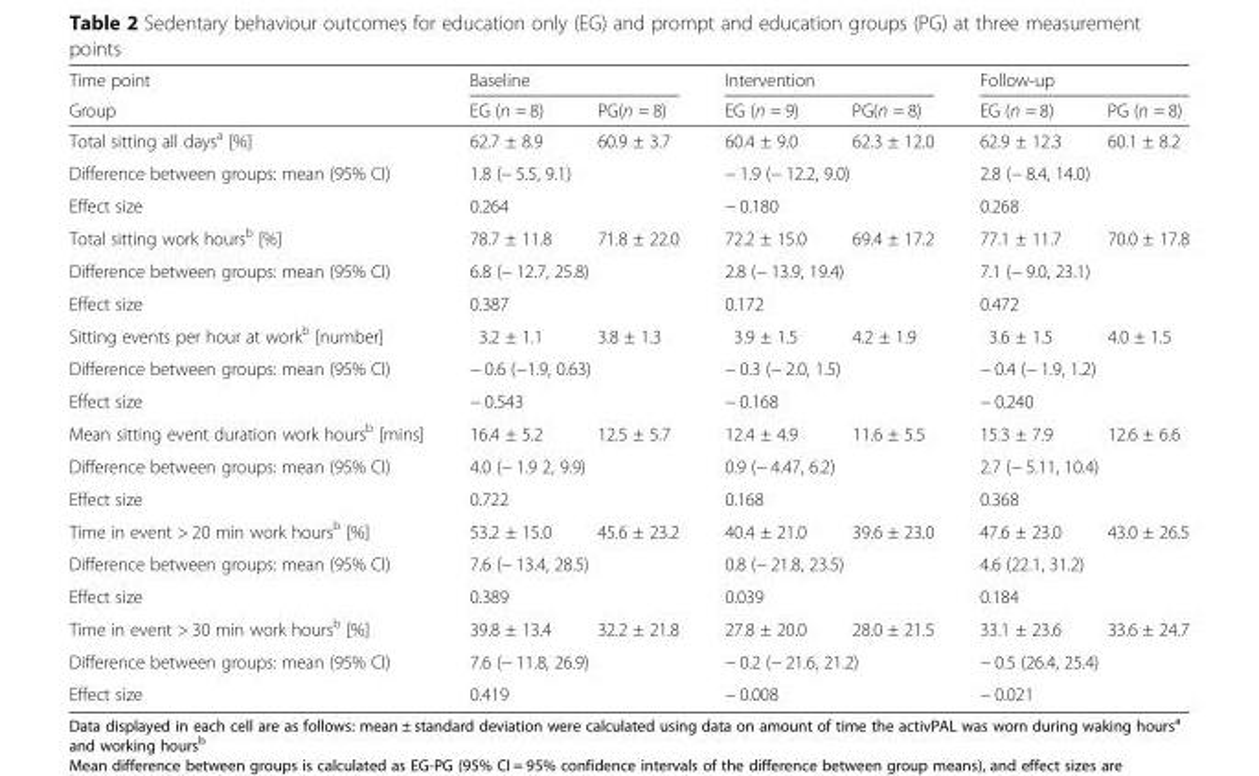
<table><thead><tr><td rowspan="2">Time point Group</td><td colspan="2">Baseline</td><td colspan="2">Intervention</td><td colspan="2">Follow-up</td></tr><tr><td>EG (n = 8)</td><td>PG(n = 8)</td><td>EG (n = 9)</td><td>PG(n = 8)</td><td>EG (n = 8)</td><td>PG (n = 8)</td></tr></thead><tbody><tr><td>Total sitting all days<sup>a</sup> [%]</td><td>62.7 ± 8.9</td><td>60.9 ± 3.7</td><td>60.4 ± 9.0</td><td>62.3 ± 12.0</td><td>62.9 ± 12.3</td><td>60.1 ± 8.2</td></tr><tr><td>Difference between groups: mean (95% CI)</td><td colspan="2">1.8 (− 5.5, 9.1)</td><td colspan="2">− 1.9 (− 12.2, 9.0)</td><td colspan="2">2.8 (− 8.4, 14.0)</td></tr><tr><td>Effect size</td><td colspan="2">0.264</td><td colspan="2">− 0.180</td><td colspan="2">0.268</td></tr><tr><td>Total sitting work hours<sup>b</sup> [%]</td><td>78.7 ± 11.8</td><td>71.8 ± 22.0</td><td>72.2 ± 15.0</td><td>69.4 ± 17.2</td><td>77.1 ± 11.7</td><td>70.0 ± 17.8</td></tr><tr><td>Difference between groups: mean (95% CI)</td><td colspan="2">6.8 (− 12.7, 25.8)</td><td colspan="2">2.8 (− 13.9, 19.4)</td><td colspan="2">7.1 (− 9.0, 23.1)</td></tr><tr><td>Effect size</td><td colspan="2">0.387</td><td colspan="2">0.172</td><td colspan="2">0.472</td></tr><tr><td>Sitting events per hour at work<sup>b</sup> [number]</td><td>3.2 ± 1.1</td><td>3.8 ± 1.3</td><td>3.9 ± 1.5</td><td>4.2 ± 1.9</td><td>3.6 ± 1.5</td><td>4.0 ± 1.5</td></tr><tr><td>Difference between groups: mean (95% CI)</td><td colspan="2">− 0.6 (−1.9, 0.63)</td><td colspan="2">− 0.3 (− 2.0, 1.5)</td><td colspan="2">− 0.4 (− 1.9, 1.2)</td></tr><tr><td>Effect size</td><td colspan="2">− 0.543</td><td colspan="2">− 0.168</td><td colspan="2">− 0.240</td></tr><tr><td>Mean sitting event duration work hours<sup>b</sup> [mins]</td><td>16.4 ± 5.2</td><td>12.5 ± 5.7</td><td>12.4 ± 4.9</td><td>11.6 ± 5.5</td><td>15.3 ± 7.9</td><td>12.6 ± 6.6</td></tr><tr><td>Difference between groups: mean (95% CI)</td><td colspan="2">4.0 (− 1.9 2, 9.9)</td><td colspan="2">0.9 (− 4.47, 6.2)</td><td colspan="2">2.7 (− 5.11, 10.4)</td></tr><tr><td>Effect size</td><td colspan="2">0.722</td><td colspan="2">0.168</td><td colspan="2">0.368</td></tr><tr><td>Time in event &gt; 20 min work hours<sup>b</sup> [%]</td><td>53.2 ± 15.0</td><td>45.6 ± 23.2</td><td>40.4 ± 21.0</td><td>39.6 ± 23.0</td><td>47.6 ± 23.0</td><td>43.0 ± 26.5</td></tr><tr><td>Difference between groups: mean (95% CI)</td><td colspan="2">7.6 (− 13.4, 28.5)</td><td colspan="2">0.8 (− 21.8, 23.5)</td><td colspan="2">4.6 (22.1, 31.2)</td></tr><tr><td>Effect size</td><td colspan="2">0.389</td><td colspan="2">0.039</td><td colspan="2">0.184</td></tr><tr><td>Time in event &gt; 30 min work hours<sup>b</sup> [%]</td><td>39.8 ± 13.4</td><td>32.2 ± 21.8</td><td>27.8 ± 20.0</td><td>28.0 ± 21.5</td><td>33.1 ± 23.6</td><td>33.6 ± 24.7</td></tr><tr><td>Difference between groups: mean (95% CI)</td><td colspan="2">7.6 (− 11.8, 26.9)</td><td colspan="2">− 0.2 (− 21.6, 21.2)</td><td colspan="2">− 0.5 (26.4, 25.4)</td></tr><tr><td>Effect size</td><td colspan="2">0.419</td><td colspan="2">− 0.008</td><td colspan="2">− 0.021</td></tr></tbody></table>